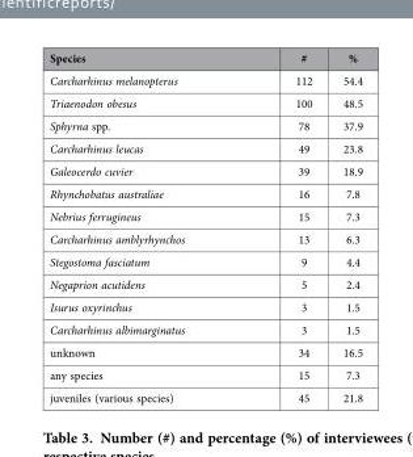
<table><thead><tr><td>Species</td><td>#</td><td>%</td></tr></thead><tbody><tr><td>Carcharhinus melanopterus</td><td>112</td><td>54.4</td></tr><tr><td>Triaenodon obesus</td><td>100</td><td>48.5</td></tr><tr><td>Sphyrna spp.</td><td>78</td><td>37.9</td></tr><tr><td>Carcharhinus leucas</td><td>49</td><td>23.8</td></tr><tr><td>Galeocerdo cuvier</td><td>39</td><td>18.9</td></tr><tr><td>Rhynchobatus australiae</td><td>16</td><td>7.8</td></tr><tr><td>Nebrius ferrugineus</td><td>15</td><td>7.3</td></tr><tr><td>Carcharhinus amblyrhynchos</td><td>13</td><td>6.3</td></tr><tr><td>Stegostoma fasciatum</td><td>9</td><td>4.4</td></tr><tr><td>Negaprion acutidens</td><td>5</td><td>2.4</td></tr><tr><td>Isurus oxyrinchus</td><td>3</td><td>1.5</td></tr><tr><td>Carcharhinus albimarginatus</td><td>3</td><td>1.5</td></tr><tr><td>unknown</td><td>34</td><td>16.5</td></tr><tr><td>any species</td><td>15</td><td>7.3</td></tr><tr><td>juveniles (various species)</td><td>45</td><td>21.8</td></tr></tbody></table>